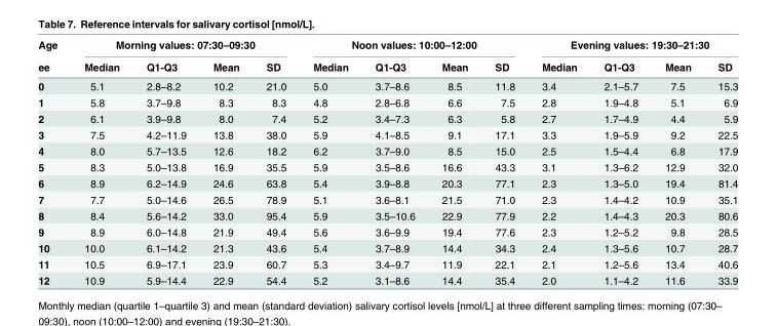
<table><thead><tr><td rowspan="2">Age ee</td><td colspan="4">Morning values: 07:30–09:30</td><td colspan="4">Noon values: 10:00–12:00</td><td colspan="4">Evening values: 19:30–21:30</td></tr><tr><td>Median</td><td>Q1-Q3</td><td>Mean</td><td>SD</td><td>Median</td><td>Q1-Q3</td><td>Mean</td><td>SD</td><td>Median</td><td>Q1-Q3</td><td>Mean</td><td>SD</td></tr></thead><tbody><tr><td>0</td><td>5.1</td><td>2.8–8.2</td><td>10.2</td><td>21.0</td><td>5.0</td><td>3.7–8.6</td><td>8.5</td><td>11.8</td><td>3.4</td><td>2.1–5.7</td><td>7.5</td><td>15.3</td></tr><tr><td>1</td><td>5.8</td><td>3.7–9.8</td><td>8.3</td><td>8.3</td><td>4.8</td><td>2.8–6.8</td><td>6.6</td><td>7.5</td><td>2.8</td><td>1.9–4.8</td><td>5.1</td><td>6.9</td></tr><tr><td>2</td><td>6.1</td><td>3.9–9.8</td><td>8.0</td><td>7.4</td><td>5.2</td><td>3.4–7.3</td><td>6.3</td><td>5.8</td><td>2.7</td><td>1.7–4.9</td><td>4.4</td><td>5.9</td></tr><tr><td>3</td><td>7.5</td><td>4.2–11.9</td><td>13.8</td><td>38.0</td><td>5.9</td><td>4.1–8.5</td><td>9.1</td><td>17.1</td><td>3.3</td><td>1.9–5.9</td><td>9.2</td><td>22.5</td></tr><tr><td>4</td><td>8.0</td><td>5.7–13.5</td><td>12.6</td><td>18.2</td><td>6.2</td><td>3.7–9.0</td><td>8.5</td><td>15.0</td><td>2.5</td><td>1.5–4.4</td><td>6.8</td><td>17.9</td></tr><tr><td>5</td><td>8.3</td><td>5.0–13.8</td><td>16.9</td><td>35.5</td><td>5.9</td><td>3.5–8.6</td><td>16.6</td><td>43.3</td><td>3.1</td><td>1.3–6.2</td><td>12.9</td><td>32.0</td></tr><tr><td>6</td><td>8.9</td><td>6.2–14.9</td><td>24.6</td><td>63.8</td><td>5.4</td><td>3.9–8.8</td><td>20.3</td><td>77.1</td><td>2.3</td><td>1.3–5.0</td><td>19.4</td><td>81.4</td></tr><tr><td>7</td><td>7.7</td><td>5.0–14.6</td><td>26.5</td><td>78.9</td><td>5.1</td><td>3.6–8.1</td><td>21.5</td><td>71.0</td><td>2.3</td><td>1.4–4.2</td><td>10.9</td><td>35.1</td></tr><tr><td>8</td><td>8.4</td><td>5.6–14.2</td><td>33.0</td><td>95.4</td><td>5.9</td><td>3.5–10.6</td><td>22.9</td><td>77.9</td><td>2.2</td><td>1.4–4.3</td><td>20.3</td><td>80.6</td></tr><tr><td>9</td><td>8.9</td><td>6.0–14.8</td><td>21.9</td><td>49.4</td><td>5.6</td><td>3.6–9.9</td><td>19.4</td><td>77.6</td><td>2.3</td><td>1.2–5.2</td><td>9.8</td><td>28.5</td></tr><tr><td>10</td><td>10.0</td><td>6.1–14.2</td><td>21.3</td><td>43.6</td><td>5.4</td><td>3.7–8.9</td><td>14.4</td><td>34.3</td><td>2.4</td><td>1.3–5.6</td><td>10.7</td><td>28.7</td></tr><tr><td>11</td><td>10.5</td><td>6.9–17.1</td><td>23.9</td><td>60.7</td><td>5.3</td><td>3.4–9.7</td><td>11.9</td><td>22.1</td><td>2.1</td><td>1.2–5.6</td><td>13.4</td><td>40.6</td></tr><tr><td>12</td><td>10.9</td><td>5.9–14.4</td><td>22.9</td><td>54.4</td><td>5.2</td><td>3.1–8.6</td><td>14.4</td><td>35.4</td><td>2.0</td><td>1.1–4.2</td><td>11.6</td><td>33.9</td></tr></tbody></table>